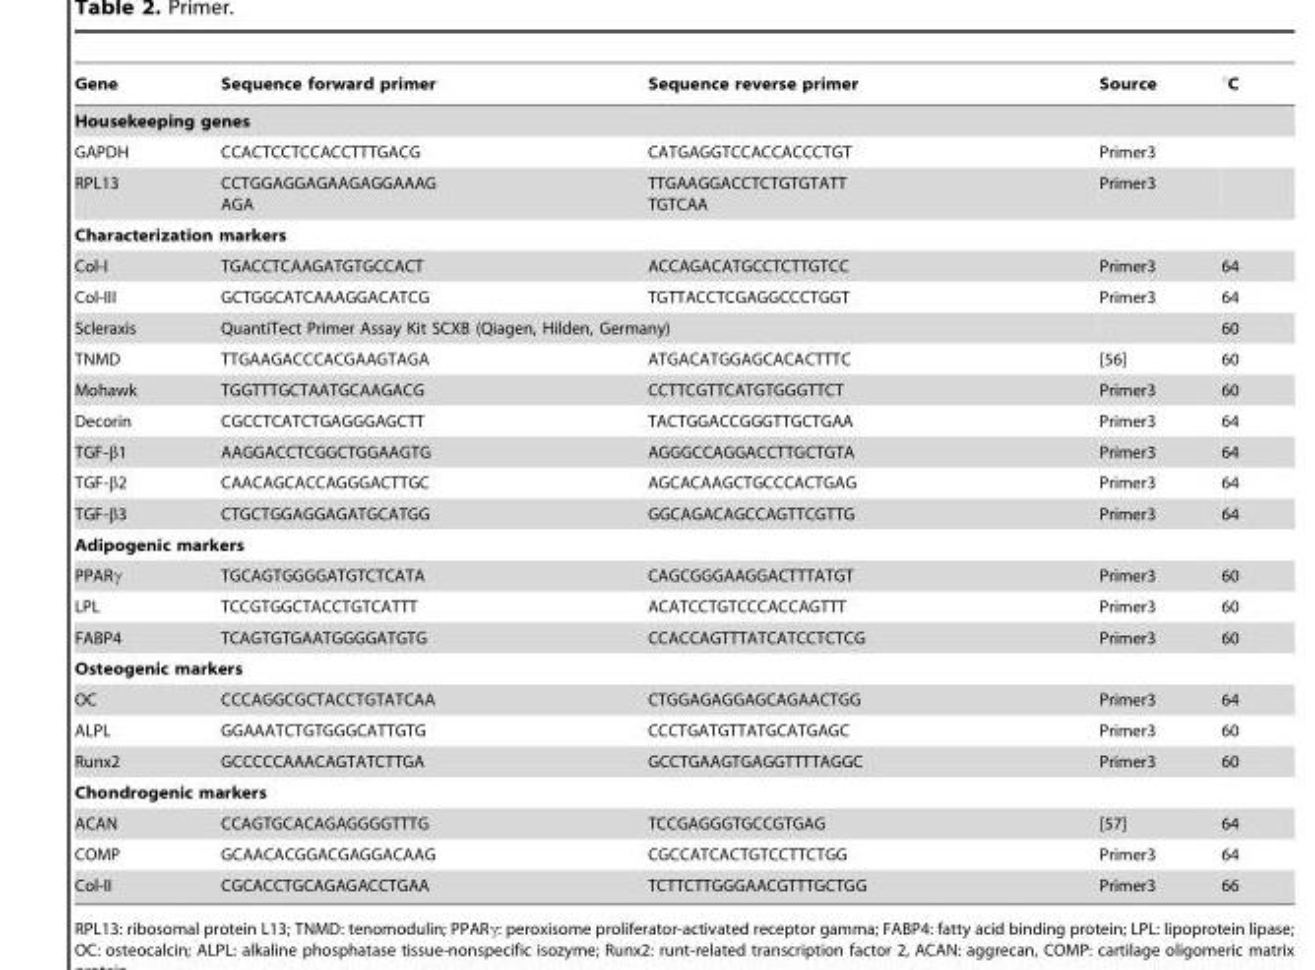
<table><thead><tr><td>Gene</td><td>Sequence forward primer</td><td>Sequence reverse primer</td><td>Source</td><td>°C</td></tr></thead><tbody><tr><td colspan="5">Housekeeping genes</td></tr><tr><td>GAPDH</td><td>CCACTCCTCCACCTTTGACG</td><td>CATGAGGTCCACCACCCTGT</td><td>Primer3</td><td></td></tr><tr><td>RPL13</td><td>CCTGGAGGAGAAGAGGAAAG AGA</td><td>TTGAAGGACCTCTGTGTATT TGTCAA</td><td>Primer3</td><td></td></tr><tr><td colspan="5">Characterization markers</td></tr><tr><td>Col-I</td><td>TGACCTCAAGATGTGCCACT</td><td>ACCAGACATGCCTCTTGTCC</td><td>Primer3</td><td>64</td></tr><tr><td>Col-III</td><td>GCTGGCATCAAAGGACATCG</td><td>TGTTACCTCGAGGCCCTGGT</td><td>Primer3</td><td>64</td></tr><tr><td>Scleraxis</td><td colspan="2">QuantiTect Primer Assay Kit SCXB (Qiagen, Hilden, Germany)</td><td></td><td>60</td></tr><tr><td>TNMD</td><td>TTGAAGACCCACGAAGTAGA</td><td>ATGACATGGAGCACACTTTC</td><td>[56]</td><td>60</td></tr><tr><td>Mohawk</td><td>TGGTTTGCTAATGCAAGACG</td><td>CCTTCGTTCATGTGGGTTCT</td><td>Primer3</td><td>60</td></tr><tr><td>Decorin</td><td>CGCCTCATCTGAGGGAGCTT</td><td>TACTGGACCGGGTTGCTGAA</td><td>Primer3</td><td>64</td></tr><tr><td>TGF-β1</td><td>AAGGACCTCGGCTGGAAGTG</td><td>AGGGCCAGGACCTTGCTGTA</td><td>Primer3</td><td>64</td></tr><tr><td>TGF-β2</td><td>CAACAGCACCAGGGACTTGC</td><td>AGCACAAGCTGCCCACTGAG</td><td>Primer3</td><td>64</td></tr><tr><td>TGF-β3</td><td>CTGCTGGAGGAGATGCATGG</td><td>GGCAGACAGCCAGTTCGTTG</td><td>Primer3</td><td>64</td></tr><tr><td colspan="5">Adipogenic markers</td></tr><tr><td>PPARγ</td><td>TGCAGTGGGGATGTCTCATA</td><td>CAGCGGGAAGGACTTTATGT</td><td>Primer3</td><td>60</td></tr><tr><td>LPL</td><td>TCCGTGGCTACCTGTCATTT</td><td>ACATCCTGTCCCACCAGTTT</td><td>Primer3</td><td>60</td></tr><tr><td>FABP4</td><td>TCAGTGTGAATGGGGATGTG</td><td>CCACCAGTTTATCATCCTCTCG</td><td>Primer3</td><td>60</td></tr><tr><td colspan="5">Osteogenic markers</td></tr><tr><td>OC</td><td>CCCAGGCGCTACCTGTATCAA</td><td>CTGGAGAGGAGCAGAACTGG</td><td>Primer3</td><td>64</td></tr><tr><td>ALPL</td><td>GGAAATCTGTGGGCATTGTG</td><td>CCCTGATGTTATGCATGAGC</td><td>Primer3</td><td>60</td></tr><tr><td>Runx2</td><td>GCCCCCAAACAGTATCTTGA</td><td>GCCTGAAGTGAGGTTTTAGGC</td><td>Primer3</td><td>60</td></tr><tr><td colspan="5">Chondrogenic markers</td></tr><tr><td>ACAN</td><td>CCAGTGCACAGAGGGGTTTG</td><td>TCCGAGGGTGCCGTGAG</td><td>[57]</td><td>64</td></tr><tr><td>COMP</td><td>GCAACACGGACGAGGACAAG</td><td>CGCCATCACTGTCCTTCTGG</td><td>Primer3</td><td>64</td></tr><tr><td>Col-II</td><td>CGCACCTGCAGAGACCTGAA</td><td>TCTTCTTGGGAACGTTTGCTGG</td><td>Primer3</td><td>66</td></tr></tbody></table>